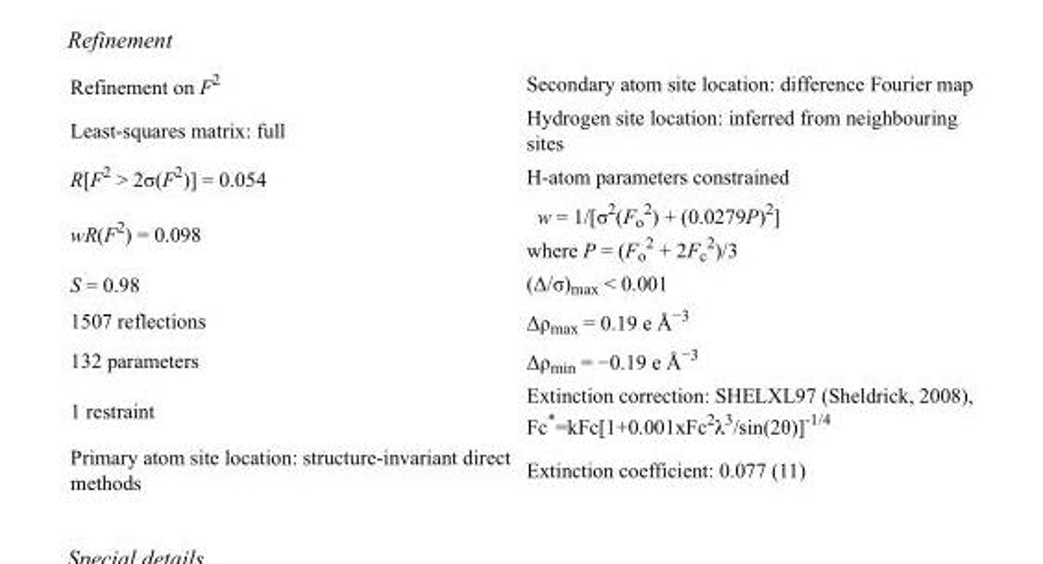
<table><tbody><tr><td>Refinement on F<sup>2</sup></td><td>Secondary atom site location: difference Fourier map</td></tr><tr><td>Least-squares matrix: full</td><td>Hydrogen site location: inferred from neighbouring sites</td></tr><tr><td>R[F<sup>2</sup> &gt; 2σ(F<sup>2</sup>)] = 0.054</td><td>H-atom parameters constrained</td></tr><tr><td>wR(F<sup>2</sup>) = 0.098</td><td>w = 1/[σ<sup>2</sup>(F<sub>o</sub> <sup>2</sup>) + (0.0279P)<sup>2</sup>] where P = (F<sub>o</sub> <sup>2</sup> + 2F<sub>c</sub> <sup>2</sup>)/3</td></tr><tr><td>S = 0.98</td><td>(Δ/σ)<sub>max</sub> &lt; 0.001</td></tr><tr><td>1507 reflections</td><td>Δρ<sub>max</sub> = 0.19 e Å<sup>−3</sup></td></tr><tr><td>132 parameters</td><td>Δρ<sub>min</sub> = −0.19 e Å<sup>−3</sup></td></tr><tr><td>1 restraint</td><td>Extinction correction: SHELXL97 (Sheldrick, 2008), Fc*=kFc[1+0.001xFc<sup>2</sup>λ<sup>3</sup>/sin(2θ)]<sup>-1/4</sup></td></tr><tr><td>Primary atom site location: structure-invariant direct methods</td><td>Extinction coefficient: 0.077 (11)</td></tr></tbody></table>